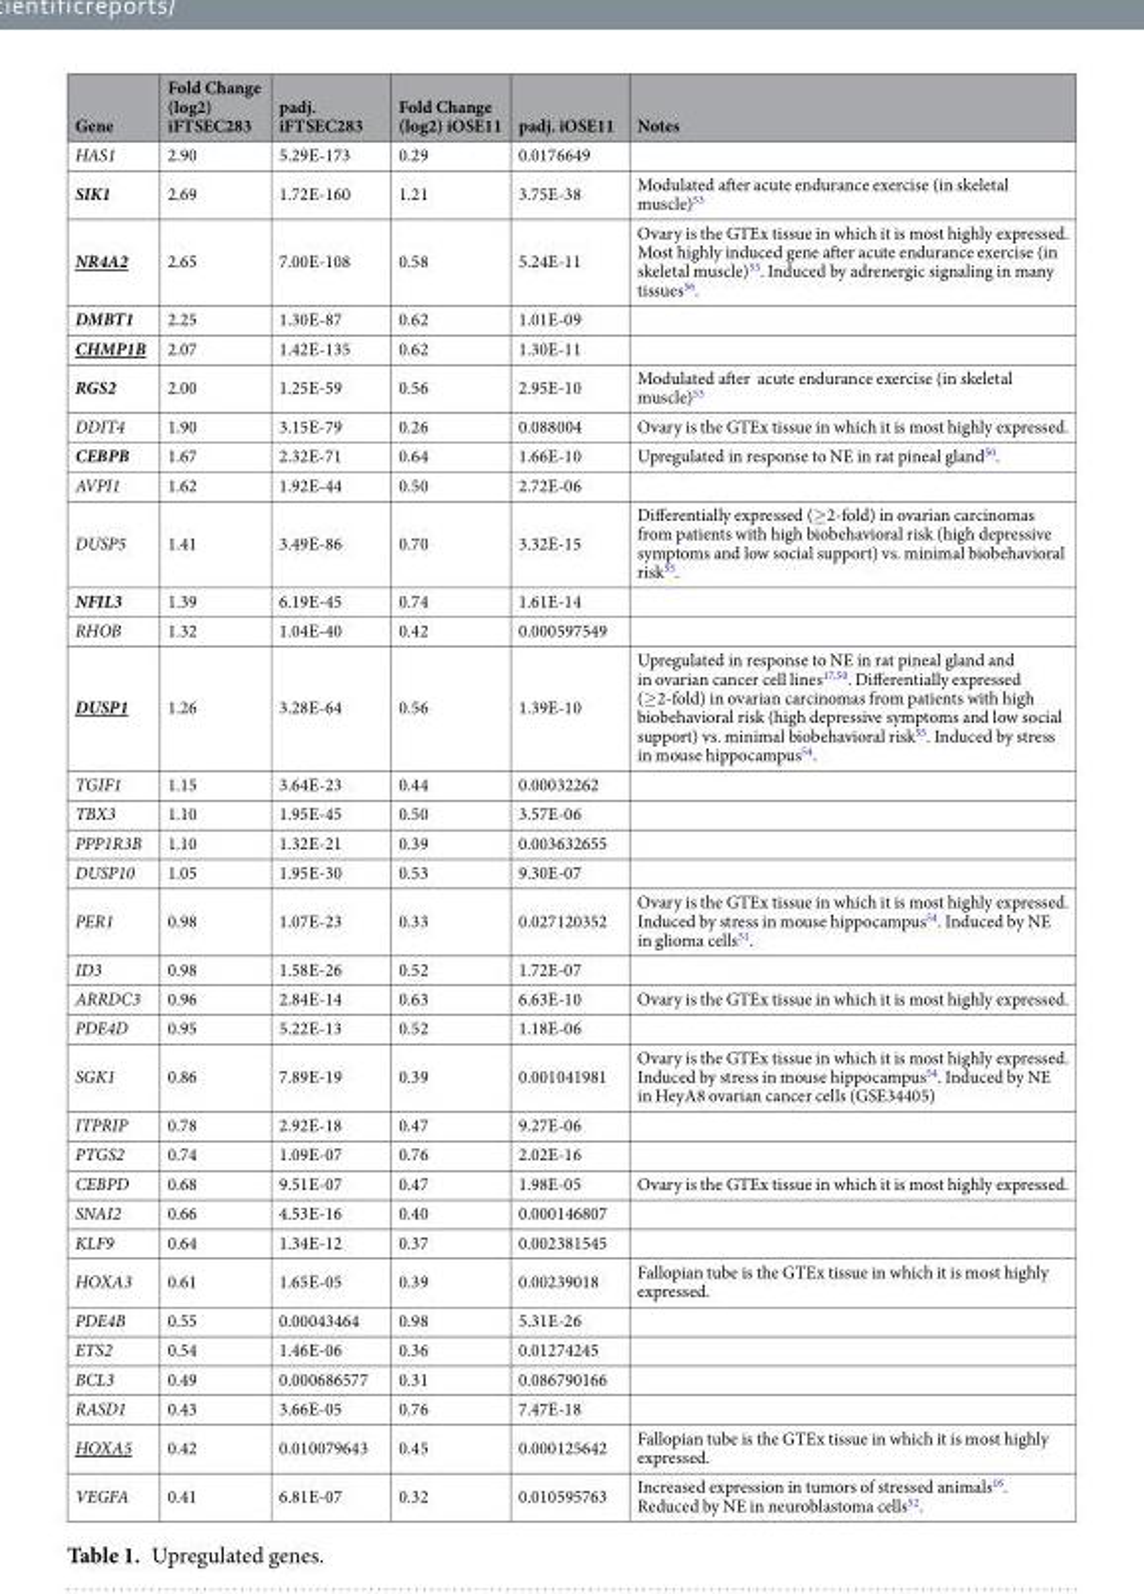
<table><thead><tr><td>Gene</td><td>Fold Change (log2) iFTSEC283</td><td>padj. iFTSEC283</td><td>Fold Change (log2) iOSE11</td><td>padj. iOSE11</td><td>Notes</td></tr></thead><tbody><tr><td>HAS1</td><td>2.90</td><td>5.29E-173</td><td>0.29</td><td>0.0176649</td><td></td></tr><tr><td>SIK1</td><td>2.69</td><td>1.72E-160</td><td>1.21</td><td>3.75E-38</td><td>Modulated after acute endurance exercise (in skeletal muscle)<sup>53</sup></td></tr><tr><td>NR4A2</td><td>2.65</td><td>7.00E-108</td><td>0.58</td><td>5.24E-11</td><td>Ovary is the GTEx tissue in which it is most highly expressed. Most highly induced gene after acute endurance exercise (in skeletal muscle)<sup>53</sup>. Induced by adrenergic signaling in many tissues<sup>56</sup>.</td></tr><tr><td>DMBT1</td><td>2.25</td><td>1.30E-87</td><td>0.62</td><td>1.01E-09</td><td></td></tr><tr><td>CHMP1B</td><td>2.07</td><td>1.42E-135</td><td>0.62</td><td>1.30E-11</td><td></td></tr><tr><td>RGS2</td><td>2.00</td><td>1.25E-59</td><td>0.56</td><td>2.95E-10</td><td>Modulated after acute endurance exercise (in skeletal muscle)<sup>53</sup></td></tr><tr><td>DDIT4</td><td>1.90</td><td>3.15E-79</td><td>0.26</td><td>0.088004</td><td>Ovary is the GTEx tissue in which it is most highly expressed.</td></tr><tr><td>CEBPB</td><td>1.67</td><td>2.32E-71</td><td>0.64</td><td>1.66E-10</td><td>Upregulated in response to NE in rat pineal gland<sup>50</sup>.</td></tr><tr><td>AVPI1</td><td>1.62</td><td>1.92E-44</td><td>0.50</td><td>2.72E-06</td><td></td></tr><tr><td>DUSP5</td><td>1.41</td><td>3.49E-86</td><td>0.70</td><td>3.32E-15</td><td>Differentially expressed (≥2-fold) in ovarian carcinomas from patients with high biobehavioral risk (high depressive symptoms and low social support) vs. minimal biobehavioral risk<sup>55</sup>.</td></tr><tr><td>NFIL3</td><td>1.39</td><td>6.19E-45</td><td>0.74</td><td>1.61E-14</td><td></td></tr><tr><td>RHOB</td><td>1.32</td><td>1.04E-40</td><td>0.42</td><td>0.000597549</td><td></td></tr><tr><td>DUSP1</td><td>1.26</td><td>3.28E-64</td><td>0.56</td><td>1.39E-10</td><td>Upregulated in response to NE in rat pineal gland and in ovarian cancer cell lines<sup>17,50</sup>. Differentially expressed (≥2-fold) in ovarian carcinomas from patients with high biobehavioral risk (high depressive symptoms and low social support) vs. minimal biobehavioral risk<sup>55</sup>. Induced by stress in mouse hippocampus<sup>54</sup>.</td></tr><tr><td>TGIF1</td><td>1.15</td><td>3.64E-23</td><td>0.44</td><td>0.00032262</td><td></td></tr><tr><td>TBX3</td><td>1.10</td><td>1.95E-45</td><td>0.50</td><td>3.57E-06</td><td></td></tr><tr><td>PPP1R3B</td><td>1.10</td><td>1.32E-21</td><td>0.39</td><td>0.003632655</td><td></td></tr><tr><td>DUSP10</td><td>1.05</td><td>1.95E-30</td><td>0.53</td><td>9.30E-07</td><td></td></tr><tr><td>PER1</td><td>0.98</td><td>1.07E-23</td><td>0.33</td><td>0.027120352</td><td>Ovary is the GTEx tissue in which it is most highly expressed. Induced by stress in mouse hippocampus<sup>54</sup>. Induced by NE in glioma cells<sup>51</sup>.</td></tr><tr><td>ID3</td><td>0.98</td><td>1.58E-26</td><td>0.52</td><td>1.72E-07</td><td></td></tr><tr><td>ARRDC3</td><td>0.96</td><td>2.84E-14</td><td>0.63</td><td>6.63E-10</td><td>Ovary is the GTEx tissue in which it is most highly expressed.</td></tr><tr><td>PDE4D</td><td>0.95</td><td>5.22E-13</td><td>0.52</td><td>1.18E-06</td><td></td></tr><tr><td>SGK1</td><td>0.86</td><td>7.89E-19</td><td>0.39</td><td>0.001041981</td><td>Ovary is the GTEx tissue in which it is most highly expressed. Induced by stress in mouse hippocampus<sup>54</sup>. Induced by NE in HeyA8 ovarian cancer cells (GSE34405)</td></tr><tr><td>ITPRIP</td><td>0.78</td><td>2.92E-18</td><td>0.47</td><td>9.27E-06</td><td></td></tr><tr><td>PTGS2</td><td>0.74</td><td>1.09E-07</td><td>0.76</td><td>2.02E-16</td><td></td></tr><tr><td>CEBPD</td><td>0.68</td><td>9.51E-07</td><td>0.47</td><td>1.98E-05</td><td>Ovary is the GTEx tissue in which it is most highly expressed.</td></tr><tr><td>SNAI2</td><td>0.66</td><td>4.53E-16</td><td>0.40</td><td>0.000146807</td><td></td></tr><tr><td>KLF9</td><td>0.64</td><td>1.34E-12</td><td>0.37</td><td>0.002381545</td><td></td></tr><tr><td>HOXA3</td><td>0.61</td><td>1.65E-05</td><td>0.39</td><td>0.00239018</td><td>Fallopian tube is the GTEx tissue in which it is most highly expressed.</td></tr><tr><td>PDE4B</td><td>0.55</td><td>0.00043464</td><td>0.98</td><td>5.31E-26</td><td></td></tr><tr><td>ETS2</td><td>0.54</td><td>1.46E-06</td><td>0.36</td><td>0.01274245</td><td></td></tr><tr><td>BCL3</td><td>0.49</td><td>0.000686577</td><td>0.31</td><td>0.086790166</td><td></td></tr><tr><td>RASD1</td><td>0.43</td><td>3.66E-05</td><td>0.76</td><td>7.47E-18</td><td></td></tr><tr><td>HOXA5</td><td>0.42</td><td>0.010079643</td><td>0.45</td><td>0.000125642</td><td>Fallopian tube is the GTEx tissue in which it is most highly expressed.</td></tr><tr><td>VEGFA</td><td>0.41</td><td>6.81E-07</td><td>0.32</td><td>0.010595763</td><td>Increased expression in tumors of stressed animals<sup>16</sup>. Reduced by NE in neuroblastoma cells<sup>52</sup>.</td></tr></tbody></table>